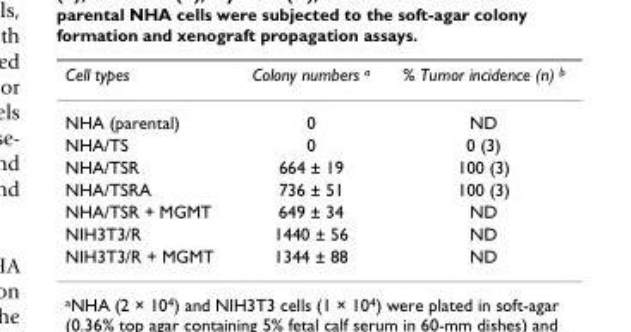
<table><thead><tr><td>Cell types</td><td>Colony numbers <sup>a</sup></td><td>% Tumor incidence (n) <sup>b</sup></td></tr></thead><tbody><tr><td>NHA (parental)</td><td>0</td><td>ND</td></tr><tr><td>NHA/TS</td><td>0</td><td>0 (3)</td></tr><tr><td>NHA/TSR</td><td>664 ± 19</td><td>100 (3)</td></tr><tr><td>NHA/TSRA</td><td>736 ± 51</td><td>100 (3)</td></tr><tr><td>NHA/TSR + MGMT</td><td>649 ± 34</td><td>ND</td></tr><tr><td>NIH3T3/R</td><td>1440 ± 56</td><td>ND</td></tr><tr><td>NIH3T3/R + MGMT</td><td>1344 ± 88</td><td>ND</td></tr></tbody></table>